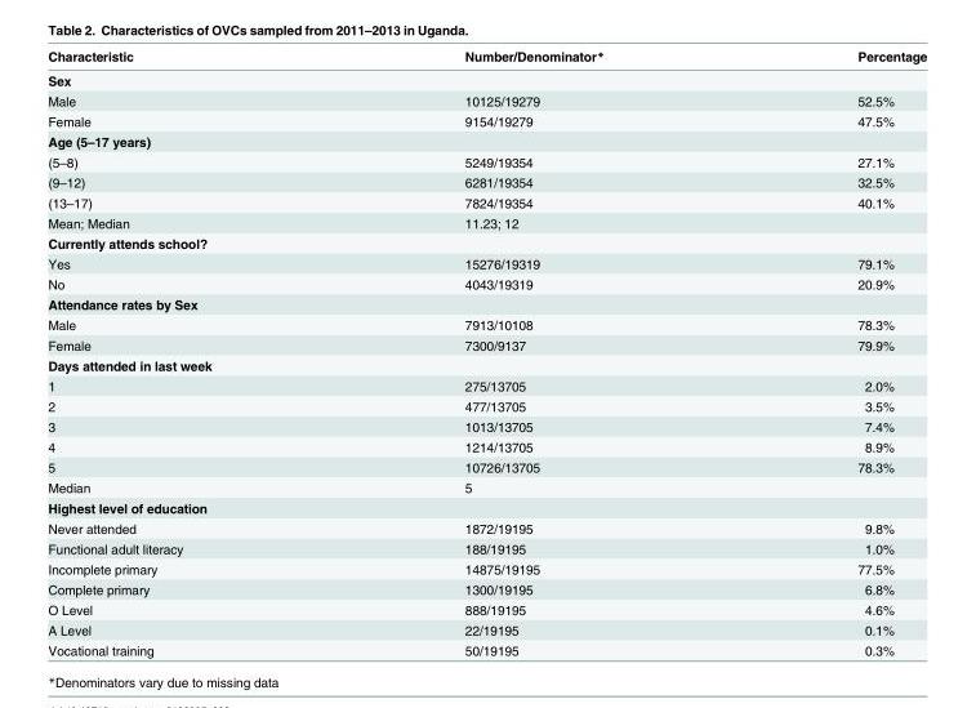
<table><thead><tr><td>Characteristic</td><td>Number/Denominator*</td><td>Percentage</td></tr></thead><tbody><tr><td colspan="3">Sex</td></tr><tr><td>Male</td><td>10125/19279</td><td>52.5%</td></tr><tr><td>Female</td><td>9154/19279</td><td>47.5%</td></tr><tr><td colspan="3">Age (5–17 years)</td></tr><tr><td>(5–8)</td><td>5249/19354</td><td>27.1%</td></tr><tr><td>(9–12)</td><td>6281/19354</td><td>32.5%</td></tr><tr><td>(13–17)</td><td>7824/19354</td><td>40.1%</td></tr><tr><td>Mean; Median</td><td>11.23; 12</td><td></td></tr><tr><td colspan="3">Currently attends school?</td></tr><tr><td>Yes</td><td>15276/19319</td><td>79.1%</td></tr><tr><td>No</td><td>4043/19319</td><td>20.9%</td></tr><tr><td colspan="3">Attendance rates by Sex</td></tr><tr><td>Male</td><td>7913/10108</td><td>78.3%</td></tr><tr><td>Female</td><td>7300/9137</td><td>79.9%</td></tr><tr><td colspan="3">Days attended in last week</td></tr><tr><td>1</td><td>275/13705</td><td>2.0%</td></tr><tr><td>2</td><td>477/13705</td><td>3.5%</td></tr><tr><td>3</td><td>1013/13705</td><td>7.4%</td></tr><tr><td>4</td><td>1214/13705</td><td>8.9%</td></tr><tr><td>5</td><td>10726/13705</td><td>78.3%</td></tr><tr><td>Median</td><td>5</td><td></td></tr><tr><td colspan="3">Highest level of education</td></tr><tr><td>Never attended</td><td>1872/19195</td><td>9.8%</td></tr><tr><td>Functional adult literacy</td><td>188/19195</td><td>1.0%</td></tr><tr><td>Incomplete primary</td><td>14875/19195</td><td>77.5%</td></tr><tr><td>Complete primary</td><td>1300/19195</td><td>6.8%</td></tr><tr><td>O Level</td><td>888/19195</td><td>4.6%</td></tr><tr><td>A Level</td><td>22/19195</td><td>0.1%</td></tr><tr><td>Vocational training</td><td>50/19195</td><td>0.3%</td></tr></tbody></table>